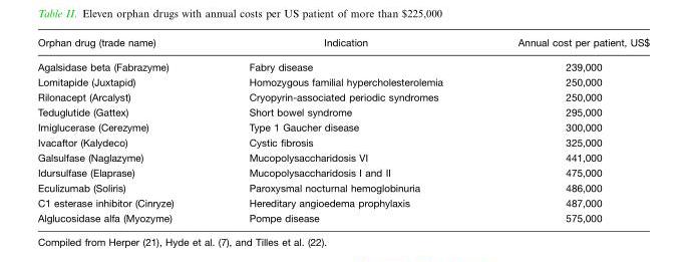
<table><thead><tr><td>Orphan drug (trade name)</td><td>Indication</td><td>Annual cost per patient, US$</td></tr></thead><tbody><tr><td>Agalsidase beta (Fabrazyme)</td><td>Fabry disease</td><td>239,000</td></tr><tr><td>Lomitapide (Juxtapid)</td><td>Homozygous familial hypercholesterolemia</td><td>250,000</td></tr><tr><td>Rilonacept (Arcalyst)</td><td>Cryopyrin-associated periodic syndromes</td><td>250,000</td></tr><tr><td>Teduglutide (Gattex)</td><td>Short bowel syndrome</td><td>295,000</td></tr><tr><td>Imiglucerase (Cerezyme)</td><td>Type 1 Gaucher disease</td><td>300,000</td></tr><tr><td>Ivacaftor (Kalydeco)</td><td>Cystic fibrosis</td><td>325,000</td></tr><tr><td>Galsulfase (Naglazyme)</td><td>Mucopolysaccharidosis VI</td><td>441,000</td></tr><tr><td>Idursulfase (Elaprase)</td><td>Mucopolysaccharidosis I and II</td><td>475,000</td></tr><tr><td>Eculizumab (Soliris)</td><td>Paroxysmal nocturnal hemoglobinuria</td><td>486,000</td></tr><tr><td>C1 esterase inhibitor (Cinryze)</td><td>Hereditary angioedema prophylaxis</td><td>487,000</td></tr><tr><td>Alglucosidase alfa (Myozyme)</td><td>Pompe disease</td><td>575,000</td></tr></tbody></table>